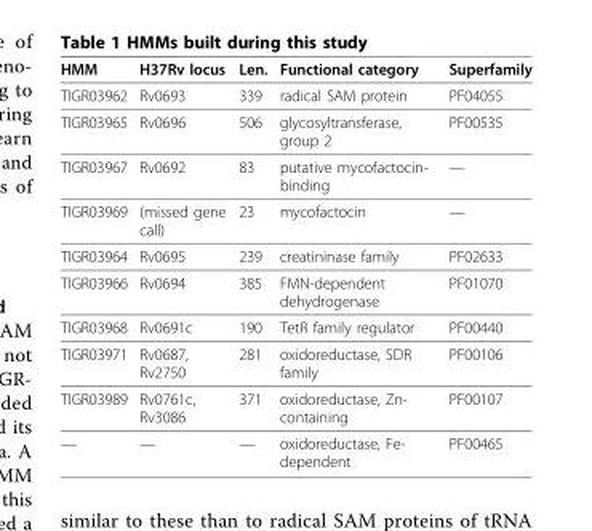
<table><thead><tr><td>HMM</td><td>H37Rv locus</td><td>Len.</td><td>Functional category</td><td>Superfamily</td></tr></thead><tbody><tr><td>TIGR03962</td><td>Rv0693</td><td>339</td><td>radical SAM protein</td><td>PF04055</td></tr><tr><td>TIGR03965</td><td>Rv0696</td><td>506</td><td>glycosyltransferase, group 2</td><td>PF00535</td></tr><tr><td>TIGR03967</td><td>Rv0692</td><td>83</td><td>putative mycofactocin- binding</td><td>—</td></tr><tr><td>TIGR03969</td><td>(missed gene call)</td><td>23</td><td>mycofactocin</td><td>—</td></tr><tr><td>TIGR03964</td><td>Rv0695</td><td>239</td><td>creatininase family</td><td>PF02633</td></tr><tr><td>TIGR03966</td><td>Rv0694</td><td>385</td><td>FMN-dependent dehydrogenase</td><td>PF01070</td></tr><tr><td>TIGR03968</td><td>Rv0691c</td><td>190</td><td>TetR family regulator</td><td>PF00440</td></tr><tr><td>TIGR03971</td><td>Rv0687, Rv2750</td><td>281</td><td>oxidoreductase, SDR family</td><td>PF00106</td></tr><tr><td>TIGR03989</td><td>Rv0761c, Rv3086</td><td>371</td><td>oxidoreductase, Zn- containing</td><td>PF00107</td></tr><tr><td>—</td><td>—</td><td>—</td><td>oxidoreductase, Fe- dependent</td><td>PF00465</td></tr></tbody></table>